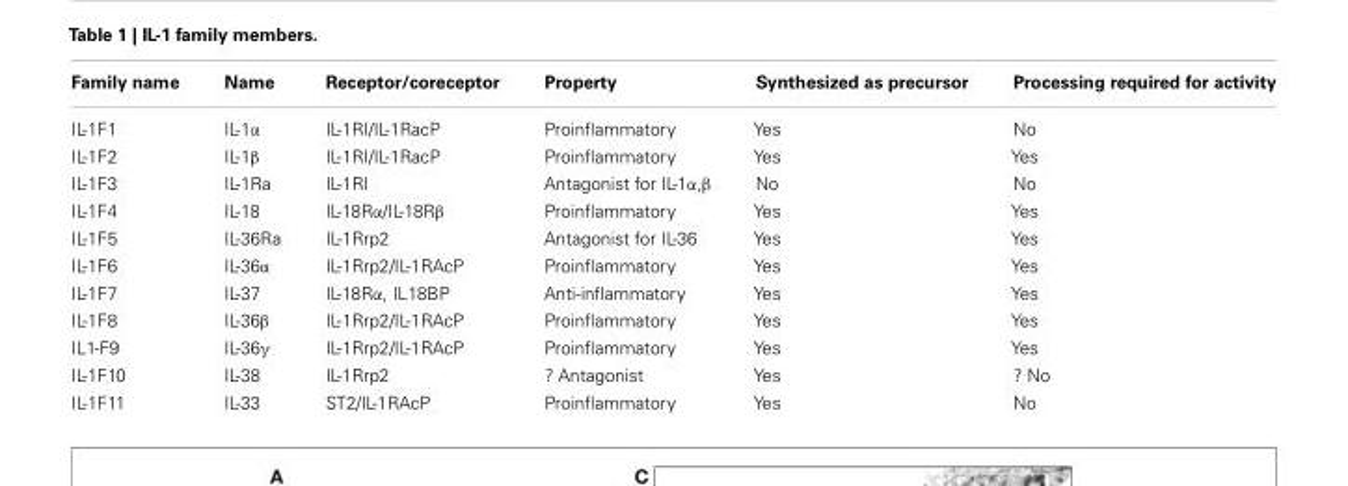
<table><thead><tr><td>Family name</td><td>Name</td><td>Receptor/coreceptor</td><td>Property</td><td>Synthesized as precursor</td><td>Processing required for activity</td></tr></thead><tbody><tr><td>IL-1F1</td><td>IL-1α</td><td>IL-1RI/IL-1RacP</td><td>Proinflammatory</td><td>Yes</td><td>No</td></tr><tr><td>IL-1F2</td><td>IL-1β</td><td>IL-1RI/IL-1RacP</td><td>Proinflammatory</td><td>Yes</td><td>Yes</td></tr><tr><td>IL-1F3</td><td>IL-1Ra</td><td>IL-1RI</td><td>Antagonist for IL-1α,β</td><td>No</td><td>No</td></tr><tr><td>IL-1F4</td><td>IL-18</td><td>IL-18Rα/IL-18Rβ</td><td>Proinflammatory</td><td>Yes</td><td>Yes</td></tr><tr><td>IL-1F5</td><td>IL-36Ra</td><td>IL-1Rrp2</td><td>Antagonist for IL-36</td><td>Yes</td><td>Yes</td></tr><tr><td>IL-1F6</td><td>IL-36α</td><td>IL-1Rrp2/IL-1RAcP</td><td>Proinflammatory</td><td>Yes</td><td>Yes</td></tr><tr><td>IL-1F7</td><td>IL-37</td><td>IL-18Rα, IL18BP</td><td>Anti-inflammatory</td><td>Yes</td><td>Yes</td></tr><tr><td>IL-1F8</td><td>IL-36β</td><td>IL-1Rrp2/IL-1RAcP</td><td>Proinflammatory</td><td>Yes</td><td>Yes</td></tr><tr><td>IL1-F9</td><td>IL-36γ</td><td>IL-1Rrp2/IL-1RAcP</td><td>Proinflammatory</td><td>Yes</td><td>Yes</td></tr><tr><td>IL-1F10</td><td>IL-38</td><td>IL-1Rrp2</td><td>? Antagonist</td><td>Yes</td><td>? No</td></tr><tr><td>IL-1F11</td><td>IL-33</td><td>ST2/IL-1RAcP</td><td>Proinflammatory</td><td>Yes</td><td>No</td></tr></tbody></table>